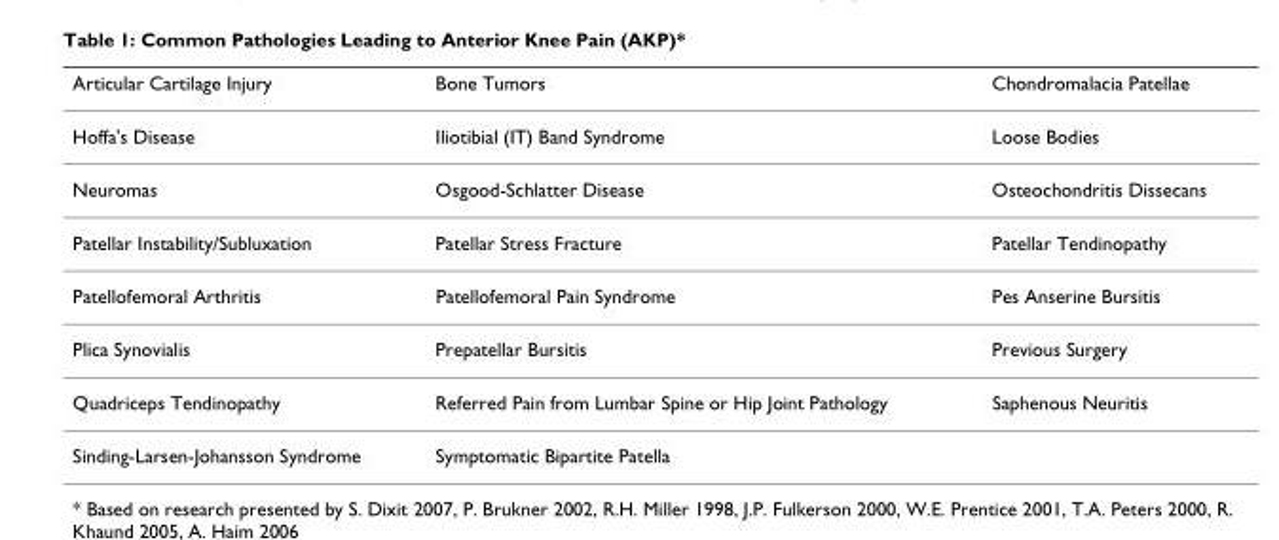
<table><thead><tr><td>Articular Cartilage Injury</td><td>Bone Tumors</td><td>Chondromalacia Patellae</td></tr></thead><tbody><tr><td>Hoffa&#x27;s Disease</td><td>Iliotibial (IT) Band Syndrome</td><td>Loose Bodies</td></tr><tr><td>Neuromas</td><td>Osgood-Schlatter Disease</td><td>Osteochondritis Dissecans</td></tr><tr><td>Patellar Instability/Subluxation</td><td>Patellar Stress Fracture</td><td>Patellar Tendinopathy</td></tr><tr><td>Patellofemoral Arthritis</td><td>Patellofemoral Pain Syndrome</td><td>Pes Anserine Bursitis</td></tr><tr><td>Plica Synovialis</td><td>Prepatellar Bursitis</td><td>Previous Surgery</td></tr><tr><td>Quadriceps Tendinopathy</td><td>Referred Pain from Lumbar Spine or Hip Joint Pathology</td><td>Saphenous Neuritis</td></tr><tr><td>Sinding-Larsen-Johansson Syndrome</td><td>Symptomatic Bipartite Patella</td><td></td></tr></tbody></table>